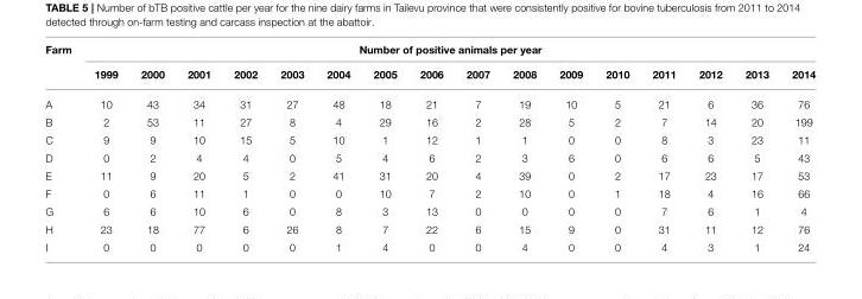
<table><thead><tr><td rowspan="2">Farm</td><td colspan="16">Number of positive animals per year</td></tr><tr><td>1999</td><td>2000</td><td>2001</td><td>2002</td><td>2003</td><td>2004</td><td>2005</td><td>2006</td><td>2007</td><td>2008</td><td>2009</td><td>2010</td><td>2011</td><td>2012</td><td>2013</td><td>2014</td></tr></thead><tbody><tr><td>A</td><td>10</td><td>43</td><td>34</td><td>31</td><td>27</td><td>48</td><td>18</td><td>21</td><td>7</td><td>19</td><td>10</td><td>5</td><td>21</td><td>6</td><td>36</td><td>76</td></tr><tr><td>B</td><td>2</td><td>53</td><td>11</td><td>27</td><td>8</td><td>4</td><td>29</td><td>16</td><td>2</td><td>28</td><td>5</td><td>2</td><td>7</td><td>14</td><td>20</td><td>199</td></tr><tr><td>C</td><td>9</td><td>9</td><td>10</td><td>15</td><td>5</td><td>10</td><td>1</td><td>12</td><td>1</td><td>1</td><td>0</td><td>0</td><td>8</td><td>3</td><td>23</td><td>11</td></tr><tr><td>D</td><td>0</td><td>2</td><td>4</td><td>4</td><td>0</td><td>5</td><td>4</td><td>6</td><td>2</td><td>3</td><td>6</td><td>0</td><td>6</td><td>6</td><td>5</td><td>43</td></tr><tr><td>E</td><td>11</td><td>9</td><td>20</td><td>5</td><td>2</td><td>41</td><td>31</td><td>20</td><td>4</td><td>39</td><td>0</td><td>2</td><td>17</td><td>23</td><td>17</td><td>53</td></tr><tr><td>F</td><td>0</td><td>6</td><td>11</td><td>1</td><td>0</td><td>0</td><td>10</td><td>7</td><td>2</td><td>10</td><td>0</td><td>1</td><td>18</td><td>4</td><td>16</td><td>66</td></tr><tr><td>G</td><td>6</td><td>6</td><td>10</td><td>6</td><td>0</td><td>8</td><td>3</td><td>13</td><td>0</td><td>0</td><td>0</td><td>0</td><td>7</td><td>6</td><td>1</td><td>4</td></tr><tr><td>H</td><td>23</td><td>18</td><td>77</td><td>6</td><td>26</td><td>8</td><td>7</td><td>22</td><td>6</td><td>15</td><td>9</td><td>0</td><td>31</td><td>11</td><td>12</td><td>76</td></tr><tr><td>I</td><td>0</td><td>0</td><td>0</td><td>0</td><td>0</td><td>1</td><td>4</td><td>0</td><td>0</td><td>4</td><td>0</td><td>0</td><td>4</td><td>3</td><td>1</td><td>24</td></tr></tbody></table>